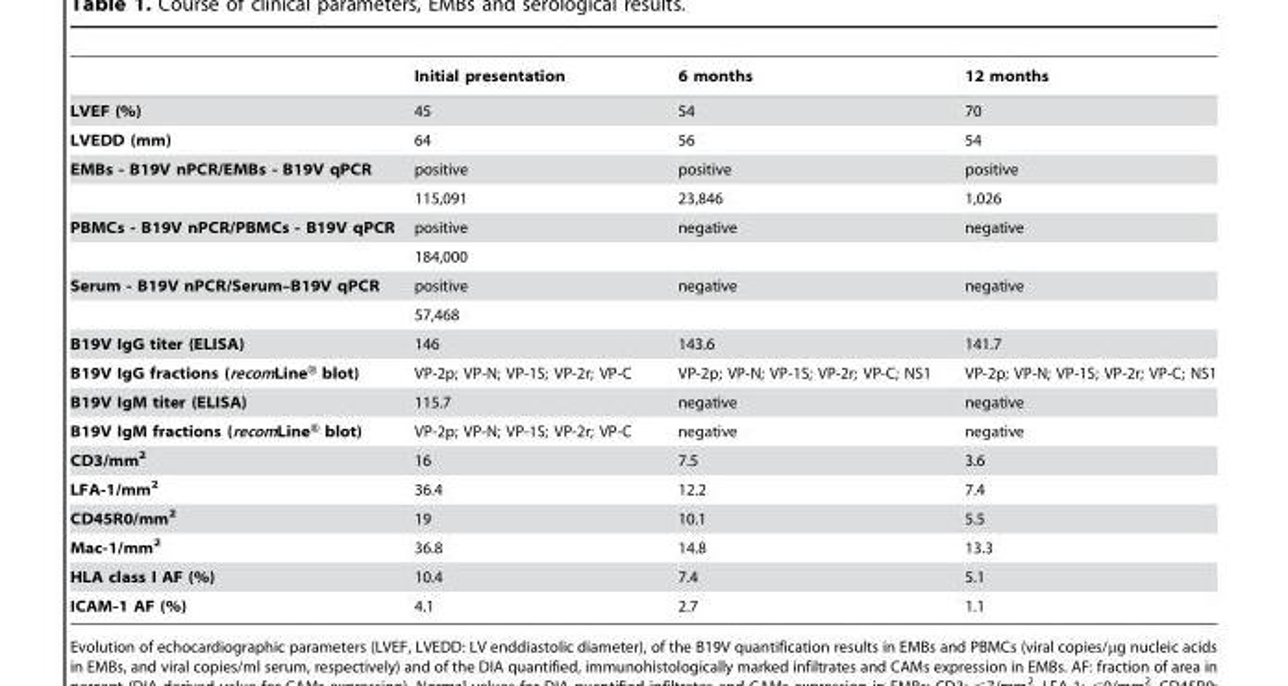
<table><thead><tr><td></td><td>Initial presentation</td><td>6 months</td><td>12 months</td></tr></thead><tbody><tr><td>LVEF (%)</td><td>45</td><td>54</td><td>70</td></tr><tr><td>LVEDD (mm)</td><td>64</td><td>56</td><td>54</td></tr><tr><td rowspan="2">EMBs - B19V nPCR/EMBs - B19V qPCR</td><td>positive</td><td>positive</td><td>positive</td></tr><tr><td>115,091</td><td>23,846</td><td>1,026</td></tr><tr><td rowspan="2">PBMCs - B19V nPCR/PBMCs - B19V qPCR</td><td>positive</td><td>negative</td><td>negative</td></tr><tr><td>184,000</td><td></td><td></td></tr><tr><td rowspan="2">Serum - B19V nPCR/Serum–B19V qPCR</td><td>positive</td><td>negative</td><td>negative</td></tr><tr><td>57,468</td><td></td><td></td></tr><tr><td>B19V IgG titer (ELISA)</td><td>146</td><td>143.6</td><td>141.7</td></tr><tr><td>B19V IgG fractions (recomLine® blot)</td><td>VP-2p; VP-N; VP-1S; VP-2r; VP-C</td><td>VP-2p; VP-N; VP-1S; VP-2r; VP-C; NS1</td><td>VP-2p; VP-N; VP-1S; VP-2r; VP-C; NS1</td></tr><tr><td>B19V IgM titer (ELISA)</td><td>115.7</td><td>negative</td><td>negative</td></tr><tr><td>B19V IgM fractions (recomLine® blot)</td><td>VP-2p; VP-N; VP-1S; VP-2r; VP-C</td><td>negative</td><td>negative</td></tr><tr><td>CD3/mm<sup>2</sup></td><td>16</td><td>7.5</td><td>3.6</td></tr><tr><td>LFA-1/mm<sup>2</sup></td><td>36.4</td><td>12.2</td><td>7.4</td></tr><tr><td>CD45R0/mm<sup>2</sup></td><td>19</td><td>10.1</td><td>5.5</td></tr><tr><td>Mac-1/mm<sup>2</sup></td><td>36.8</td><td>14.8</td><td>13.3</td></tr><tr><td>HLA class I AF (%)</td><td>10.4</td><td>7.4</td><td>5.1</td></tr><tr><td>ICAM-1 AF (%)</td><td>4.1</td><td>2.7</td><td>1.1</td></tr></tbody></table>